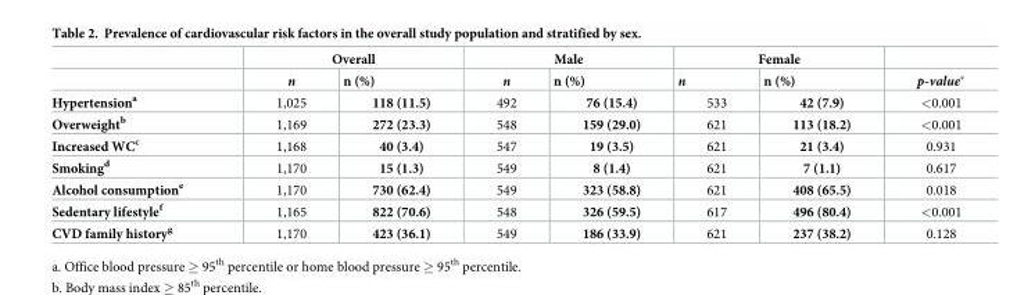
<table><thead><tr><td rowspan="2"></td><td colspan="2">Overall</td><td colspan="2">Male</td><td colspan="2">Female</td><td rowspan="2">p-value*</td></tr><tr><td>n</td><td>n (%)</td><td>n</td><td>n (%)</td><td>n</td><td>n (%)</td></tr></thead><tbody><tr><td>Hypertension<sup>a</sup></td><td>1,025</td><td>118 (11.5)</td><td>492</td><td>76 (15.4)</td><td>533</td><td>42 (7.9)</td><td>&lt;0.001</td></tr><tr><td>Overweight<sup>b</sup></td><td>1,169</td><td>272 (23.3)</td><td>548</td><td>159 (29.0)</td><td>621</td><td>113 (18.2)</td><td>&lt;0.001</td></tr><tr><td>Increased WC<sup>c</sup></td><td>1,168</td><td>40 (3.4)</td><td>547</td><td>19 (3.5)</td><td>621</td><td>21 (3.4)</td><td>0.931</td></tr><tr><td>Smoking<sup>d</sup></td><td>1,170</td><td>15 (1.3)</td><td>549</td><td>8 (1.4)</td><td>621</td><td>7 (1.1)</td><td>0.617</td></tr><tr><td>Alcohol consumption<sup>e</sup></td><td>1,170</td><td>730 (62.4)</td><td>549</td><td>323 (58.8)</td><td>621</td><td>408 (65.5)</td><td>0.018</td></tr><tr><td>Sedentary lifestyle<sup>f</sup></td><td>1,165</td><td>822 (70.6)</td><td>548</td><td>326 (59.5)</td><td>617</td><td>496 (80.4)</td><td>&lt;0.001</td></tr><tr><td>CVD family history<sup>g</sup></td><td>1,170</td><td>423 (36.1)</td><td>549</td><td>186 (33.9)</td><td>621</td><td>237 (38.2)</td><td>0.128</td></tr></tbody></table>